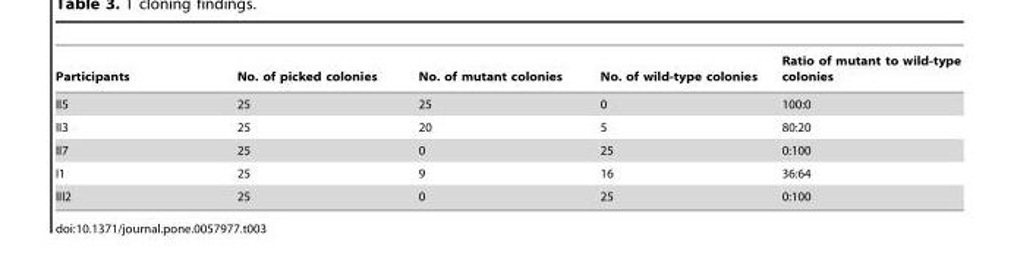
<table><thead><tr><td>Participants</td><td>No. of picked colonies</td><td>No. of mutant colonies</td><td>No. of wild-type colonies</td><td>Ratio of mutant to wild-type colonies</td></tr></thead><tbody><tr><td>II5</td><td>25</td><td>25</td><td>0</td><td>100:0</td></tr><tr><td>II3</td><td>25</td><td>20</td><td>5</td><td>80:20</td></tr><tr><td>II7</td><td>25</td><td>0</td><td>25</td><td>0:100</td></tr><tr><td>I1</td><td>25</td><td>9</td><td>16</td><td>36:64</td></tr><tr><td>III2</td><td>25</td><td>0</td><td>25</td><td>0:100</td></tr></tbody></table>